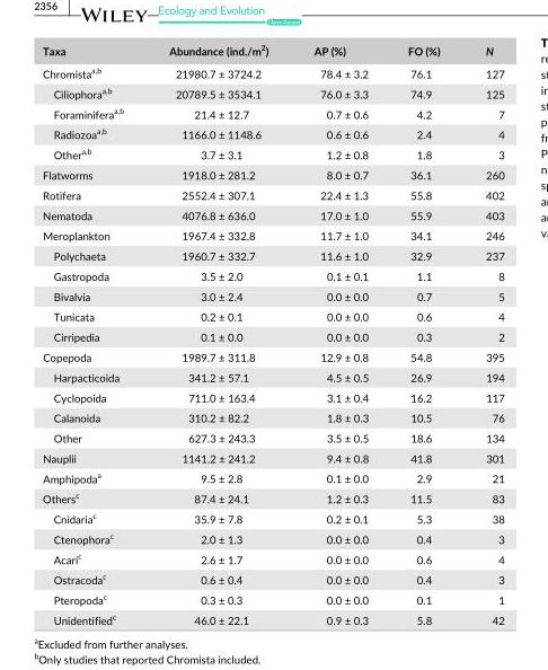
<table><thead><tr><td>Taxa</td><td>Abundance (ind./m<sup>2</sup>)</td><td>AP (%)</td><td>FO (%)</td><td>N</td></tr></thead><tbody><tr><td>Chromista<sup>a</sup>,<sup>b</sup></td><td>21980.7 ± 3724.2</td><td>78.4 ± 3.2</td><td>76.1</td><td>127</td></tr><tr><td>Ciliophora<sup>a</sup>,<sup>b</sup></td><td>20789.5 ± 3534.1</td><td>76.0 ± 3.3</td><td>74.9</td><td>125</td></tr><tr><td>Foraminifera<sup>a</sup>,<sup>b</sup></td><td>21.4 ± 12.7</td><td>0.7 ± 0.6</td><td>4.2</td><td>7</td></tr><tr><td>Radiozoa<sup>a</sup>,<sup>b</sup></td><td>1166.0 ± 1148.6</td><td>0.6 ± 0.6</td><td>2.4</td><td>4</td></tr><tr><td>Other<sup>a</sup>,<sup>b</sup></td><td>3.7 ± 3.1</td><td>1.2 ± 0.8</td><td>1.8</td><td>3</td></tr><tr><td>Flatworms</td><td>1918.0 ± 281.2</td><td>8.0 ± 0.7</td><td>36.1</td><td>260</td></tr><tr><td>Rotifera</td><td>2552.4 ± 307.1</td><td>22.4 ± 1.3</td><td>55.8</td><td>402</td></tr><tr><td>Nematoda</td><td>4076.8 ± 636.0</td><td>17.0 ± 1.0</td><td>55.9</td><td>403</td></tr><tr><td>Meroplankton</td><td>1967.4 ± 332.8</td><td>11.7 ± 1.0</td><td>34.1</td><td>246</td></tr><tr><td>Polychaeta</td><td>1960.7 ± 332.7</td><td>11.6 ± 1.0</td><td>32.9</td><td>237</td></tr><tr><td>Gastropoda</td><td>3.5 ± 2.0</td><td>0.1 ± 0.1</td><td>1.1</td><td>8</td></tr><tr><td>Bivalvia</td><td>3.0 ± 2.4</td><td>0.0 ± 0.0</td><td>0.7</td><td>5</td></tr><tr><td>Tunicata</td><td>0.2 ± 0.1</td><td>0.0 ± 0.0</td><td>0.6</td><td>4</td></tr><tr><td>Cirripedia</td><td>0.1 ± 0.0</td><td>0.0 ± 0.0</td><td>0.3</td><td>2</td></tr><tr><td>Copepoda</td><td>1989.7 ± 311.8</td><td>12.9 ± 0.8</td><td>54.8</td><td>395</td></tr><tr><td>Harpacticoida</td><td>341.2 ± 57.1</td><td>4.5 ± 0.5</td><td>26.9</td><td>194</td></tr><tr><td>Cyclopoida</td><td>711.0 ± 163.4</td><td>3.1 ± 0.4</td><td>16.2</td><td>117</td></tr><tr><td>Calanoida</td><td>310.2 ± 82.2</td><td>1.8 ± 0.3</td><td>10.5</td><td>76</td></tr><tr><td>Other</td><td>627.3 ± 243.3</td><td>3.5 ± 0.5</td><td>18.6</td><td>134</td></tr><tr><td>Nauplii</td><td>1141.2 ± 241.2</td><td>9.4 ± 0.8</td><td>41.8</td><td>301</td></tr><tr><td>Amphipoda<sup>a</sup></td><td>9.5 ± 2.8</td><td>0.1 ± 0.0</td><td>2.9</td><td>21</td></tr><tr><td>Others<sup>c</sup></td><td>87.4 ± 24.1</td><td>1.2 ± 0.3</td><td>11.5</td><td>83</td></tr><tr><td>Cnidaria<sup>c</sup></td><td>35.9 ± 7.8</td><td>0.2 ± 0.1</td><td>5.3</td><td>38</td></tr><tr><td>Ctenophora<sup>c</sup></td><td>2.0 ± 1.3</td><td>0.0 ± 0.0</td><td>0.4</td><td>3</td></tr><tr><td>Acari<sup>c</sup></td><td>2.6 ± 1.7</td><td>0.0 ± 0.0</td><td>0.6</td><td>4</td></tr><tr><td>Ostracoda<sup>c</sup></td><td>0.6 ± 0.4</td><td>0.0 ± 0.0</td><td>0.4</td><td>3</td></tr><tr><td>Pteropoda<sup>c</sup></td><td>0.3 ± 0.3</td><td>0.0 ± 0.0</td><td>0.1</td><td>1</td></tr><tr><td>Unidentified<sup>c</sup></td><td>46.0 ± 22.1</td><td>0.9 ± 0.3</td><td>5.8</td><td>42</td></tr></tbody></table>